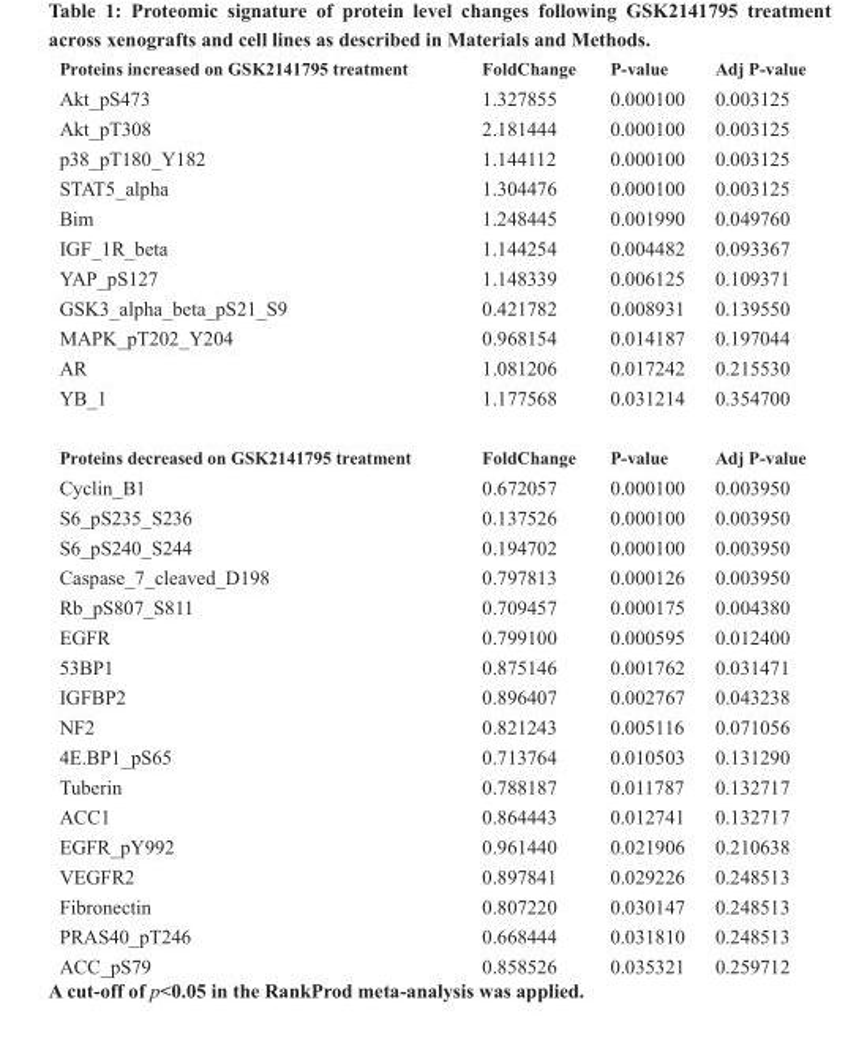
<table><tbody><tr><td>Proteins increased on GSK2141795 treatment</td><td>FoldChange</td><td>P-value</td><td>Adj P-value</td></tr><tr><td>Akt_pS473</td><td>1.327855</td><td>0.000100</td><td>0.003125</td></tr><tr><td>Akt_pT308</td><td>2.181444</td><td>0.000100</td><td>0.003125</td></tr><tr><td>p38_pT180_Y182</td><td>1.144112</td><td>0.000100</td><td>0.003125</td></tr><tr><td>STAT5_alpha</td><td>1.304476</td><td>0.000100</td><td>0.003125</td></tr><tr><td>Bim</td><td>1.248445</td><td>0.001990</td><td>0.049760</td></tr><tr><td>IGF_1R_beta</td><td>1.144254</td><td>0.004482</td><td>0.093367</td></tr><tr><td>YAP_pS127</td><td>1.148339</td><td>0.006125</td><td>0.109371</td></tr><tr><td>GSK3_alpha_beta_pS21_S9</td><td>0.421782</td><td>0.008931</td><td>0.139550</td></tr><tr><td>MAPK_pT202_Y204</td><td>0.968154</td><td>0.014187</td><td>0.197044</td></tr><tr><td>AR</td><td>1.081206</td><td>0.017242</td><td>0.215530</td></tr><tr><td>YB_1</td><td>1.177568</td><td>0.031214</td><td>0.354700</td></tr><tr><td>Proteins decreased on GSK2141795 treatment</td><td>FoldChange</td><td>P-value</td><td>Adj P-value</td></tr><tr><td>Cyclin_B1</td><td>0.672057</td><td>0.000100</td><td>0.003950</td></tr><tr><td>S6_pS235_S236</td><td>0.137526</td><td>0.000100</td><td>0.003950</td></tr><tr><td>S6_pS240_S244</td><td>0.194702</td><td>0.000100</td><td>0.003950</td></tr><tr><td>Caspase_7_cleaved_D198</td><td>0.797813</td><td>0.000126</td><td>0.003950</td></tr><tr><td>Rb_pS807_S811</td><td>0.709457</td><td>0.000175</td><td>0.004380</td></tr><tr><td>EGFR</td><td>0.799100</td><td>0.000595</td><td>0.012400</td></tr><tr><td>53BP1</td><td>0.875146</td><td>0.001762</td><td>0.031471</td></tr><tr><td>IGFBP2</td><td>0.896407</td><td>0.002767</td><td>0.043238</td></tr><tr><td>NF2</td><td>0.821243</td><td>0.005116</td><td>0.071056</td></tr><tr><td>4E.BP1_pS65</td><td>0.713764</td><td>0.010503</td><td>0.131290</td></tr><tr><td>Tuberin</td><td>0.788187</td><td>0.011787</td><td>0.132717</td></tr><tr><td>ACC1</td><td>0.864443</td><td>0.012741</td><td>0.132717</td></tr><tr><td>EGFR_pY992</td><td>0.961440</td><td>0.021906</td><td>0.210638</td></tr><tr><td>VEGFR2</td><td>0.897841</td><td>0.029226</td><td>0.248513</td></tr><tr><td>Fibronectin</td><td>0.807220</td><td>0.030147</td><td>0.248513</td></tr><tr><td>PRAS40_pT246</td><td>0.668444</td><td>0.031810</td><td>0.248513</td></tr><tr><td>ACC_pS79</td><td>0.858526</td><td>0.035321</td><td>0.259712</td></tr></tbody></table>